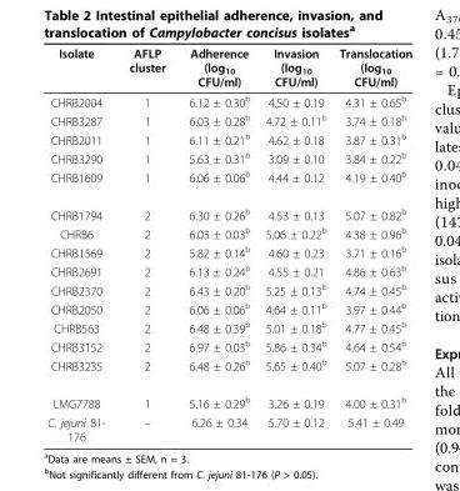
<table><thead><tr><td>Isolate</td><td>AFLP cluster</td><td>Adherence (log<sub>10</sub> CFU/ml)</td><td>Invasion (log<sub>10</sub> CFU/ml)</td><td>Translocation (log<sub>10</sub> CFU/ml)</td></tr></thead><tbody><tr><td>CHRB2004</td><td>1</td><td>6.12 ± 0.30<sup>b</sup></td><td>4.50 ± 0.19</td><td>4.31 ± 0.65<sup>b</sup></td></tr><tr><td>CHRB3287</td><td>1</td><td>6.03 ± 0.28<sup>b</sup></td><td>4.72 ± 0.11<sup>b</sup></td><td>3.74 ± 0.18<sup>b</sup></td></tr><tr><td>CHRB2011</td><td>1</td><td>6.11 ± 0.21<sup>b</sup></td><td>4.62 ± 0.18</td><td>3.87 ± 0.31<sup>b</sup></td></tr><tr><td>CHRB3290</td><td>1</td><td>5.63 ± 0.31<sup>b</sup></td><td>3.09 ± 0.10</td><td>3.84 ± 0.22<sup>b</sup></td></tr><tr><td>CHRB1609</td><td>1</td><td>6.06 ± 0.06<sup>b</sup></td><td>4.44 ± 0.12</td><td>4.19 ± 0.40<sup>b</sup></td></tr><tr><td>CHRB1794</td><td>2</td><td>6.30 ± 0.26<sup>b</sup></td><td>4.53 ± 0.13</td><td>5.07 ± 0.82<sup>b</sup></td></tr><tr><td>CHRB6</td><td>2</td><td>6.03 ± 0.03<sup>b</sup></td><td>5.06 ± 0.22<sup>b</sup></td><td>4.38 ± 0.96<sup>b</sup></td></tr><tr><td>CHRB1569</td><td>2</td><td>5.82 ± 0.14<sup>b</sup></td><td>4.60 ± 0.23</td><td>3.71 ± 0.16<sup>b</sup></td></tr><tr><td>CHRB2691</td><td>2</td><td>6.13 ± 0.24<sup>b</sup></td><td>4.55 ± 0.21</td><td>4.86 ± 0.63<sup>b</sup></td></tr><tr><td>CHRB2370</td><td>2</td><td>6.43 ± 0.20<sup>b</sup></td><td>5.25 ± 0.13<sup>b</sup></td><td>4.74 ± 0.45<sup>b</sup></td></tr><tr><td>CHRB2050</td><td>2</td><td>6.06 ± 0.06<sup>b</sup></td><td>4.64 ± 0.11<sup>b</sup></td><td>3.97 ± 0.44<sup>b</sup></td></tr><tr><td>CHRB563</td><td>2</td><td>6.48 ± 0.39<sup>b</sup></td><td>5.01 ± 0.18<sup>b</sup></td><td>4.77 ± 0.45<sup>b</sup></td></tr><tr><td>CHRB3152</td><td>2</td><td>6.97 ± 0.03<sup>b</sup></td><td>5.86 ± 0.34<sup>b</sup></td><td>4.64 ± 0.54<sup>b</sup></td></tr><tr><td>CHRB3235</td><td>2</td><td>6.48 ± 0.26<sup>b</sup></td><td>5.65 ± 0.40<sup>b</sup></td><td>5.07 ± 0.28<sup>b</sup></td></tr><tr><td>LMG7788</td><td>1</td><td>5.16 ± 0.29<sup>b</sup></td><td>3.26 ± 0.19</td><td>4.00 ± 0.31<sup>b</sup></td></tr><tr><td>C. jejuni 81- 176</td><td>–</td><td>6.26 ± 0.34</td><td>5.70 ± 0.12</td><td>5.41 ± 0.49</td></tr></tbody></table>